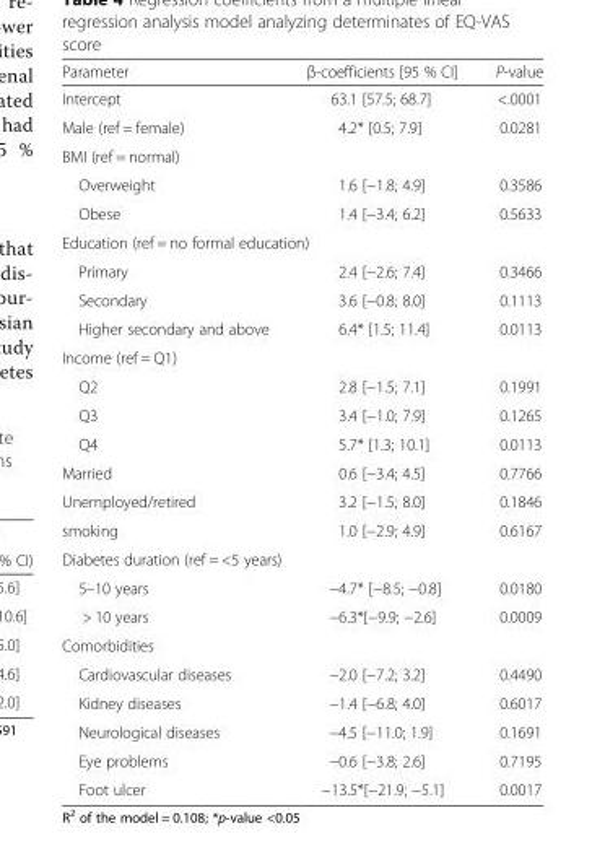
<table><thead><tr><td>Parameter</td><td>β-coefficients [95 % CI]</td><td>P-value</td></tr></thead><tbody><tr><td>Intercept</td><td>63.1 [57.5; 68.7]</td><td>&lt;.0001</td></tr><tr><td>Male (ref = female)</td><td>4.2* [0.5; 7.9]</td><td>0.0281</td></tr><tr><td colspan="3">BMI (ref = normal)</td></tr><tr><td>Overweight</td><td>1.6 [−1.8; 4.9]</td><td>0.3586</td></tr><tr><td>Obese</td><td>1.4 [−3.4; 6.2]</td><td>0.5633</td></tr><tr><td colspan="3">Education (ref = no formal education)</td></tr><tr><td>Primary</td><td>2.4 [−2.6; 7.4]</td><td>0.3466</td></tr><tr><td>Secondary</td><td>3.6 [−0.8; 8.0]</td><td>0.1113</td></tr><tr><td>Higher secondary and above</td><td>6.4* [1.5; 11.4]</td><td>0.0113</td></tr><tr><td colspan="3">Income (ref = Q1)</td></tr><tr><td>Q2</td><td>2.8 [−1.5; 7.1]</td><td>0.1991</td></tr><tr><td>Q3</td><td>3.4 [−1.0; 7.9]</td><td>0.1265</td></tr><tr><td>Q4</td><td>5.7* [1.3; 10.1]</td><td>0.0113</td></tr><tr><td>Married</td><td>0.6 [−3.4; 4.5]</td><td>0.7766</td></tr><tr><td>Unemployed/retired</td><td>3.2 [−1.5; 8.0]</td><td>0.1846</td></tr><tr><td>smoking</td><td>1.0 [−2.9; 4.9]</td><td>0.6167</td></tr><tr><td colspan="3">Diabetes duration (ref = &lt;5 years)</td></tr><tr><td>5–10 years</td><td>−4.7* [−8.5; −0.8]</td><td>0.0180</td></tr><tr><td>&gt; 10 years</td><td>−6.3*[−9.9; −2.6]</td><td>0.0009</td></tr><tr><td colspan="3">Comorbidities</td></tr><tr><td>Cardiovascular diseases</td><td>−2.0 [−7.2; 3.2]</td><td>0.4490</td></tr><tr><td>Kidney diseases</td><td>−1.4 [−6.8; 4.0]</td><td>0.6017</td></tr><tr><td>Neurological diseases</td><td>−4.5 [−11.0; 1.9]</td><td>0.1691</td></tr><tr><td>Eye problems</td><td>−0.6 [−3.8; 2.6]</td><td>0.7195</td></tr><tr><td>Foot ulcer</td><td>−13.5*[−21.9; −5.1]</td><td>0.0017</td></tr></tbody></table>